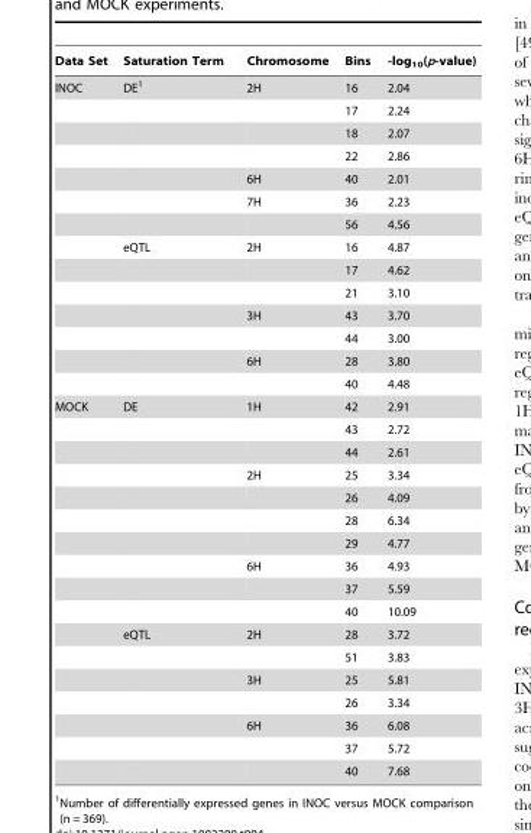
<table><thead><tr><td>Data Set</td><td>Saturation Term</td><td>Chromosome</td><td>Bins</td><td>-log<sub>10</sub>(p-value)</td></tr></thead><tbody><tr><td rowspan="14">INOC</td><td>DE<sup>1</sup></td><td>2H</td><td>16</td><td>2.04</td></tr><tr><td></td><td></td><td>17</td><td>2.24</td></tr><tr><td></td><td></td><td>18</td><td>2.07</td></tr><tr><td></td><td></td><td>22</td><td>2.86</td></tr><tr><td></td><td>6H</td><td>40</td><td>2.01</td></tr><tr><td></td><td>7H</td><td>36</td><td>2.23</td></tr><tr><td></td><td></td><td>56</td><td>4.56</td></tr><tr><td>eQTL</td><td>2H</td><td>16</td><td>4.87</td></tr><tr><td></td><td></td><td>17</td><td>4.62</td></tr><tr><td></td><td></td><td>21</td><td>3.10</td></tr><tr><td></td><td>3H</td><td>43</td><td>3.70</td></tr><tr><td></td><td></td><td>44</td><td>3.00</td></tr><tr><td></td><td>6H</td><td>28</td><td>3.80</td></tr><tr><td></td><td></td><td>40</td><td>4.48</td></tr><tr><td rowspan="17">MOCK</td><td>DE</td><td>1H</td><td>42</td><td>2.91</td></tr><tr><td></td><td></td><td>43</td><td>2.72</td></tr><tr><td></td><td></td><td>44</td><td>2.61</td></tr><tr><td></td><td>2H</td><td>25</td><td>3.34</td></tr><tr><td></td><td></td><td>26</td><td>4.09</td></tr><tr><td></td><td></td><td>28</td><td>6.34</td></tr><tr><td></td><td></td><td>29</td><td>4.77</td></tr><tr><td></td><td>6H</td><td>36</td><td>4.93</td></tr><tr><td></td><td></td><td>37</td><td>5.59</td></tr><tr><td></td><td></td><td>40</td><td>10.09</td></tr><tr><td>eQTL</td><td>2H</td><td>28</td><td>3.72</td></tr><tr><td></td><td></td><td>51</td><td>3.83</td></tr><tr><td></td><td>3H</td><td>25</td><td>5.81</td></tr><tr><td></td><td></td><td>26</td><td>3.34</td></tr><tr><td></td><td>6H</td><td>36</td><td>6.08</td></tr><tr><td></td><td></td><td>37</td><td>5.72</td></tr><tr><td></td><td></td><td>40</td><td>7.68</td></tr></tbody></table>